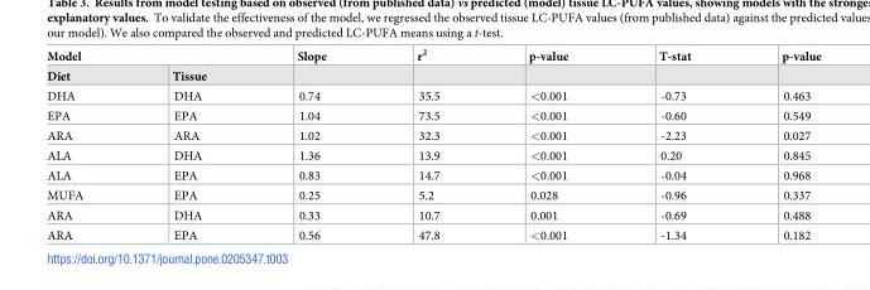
<table><thead><tr><td colspan="2">Model</td><td rowspan="2">Slope</td><td rowspan="2">r<sup>2</sup></td><td rowspan="2">p-value</td><td rowspan="2">T-stat</td><td rowspan="2">p-value</td></tr><tr><td>Diet</td><td>Tissue</td></tr></thead><tbody><tr><td>DHA</td><td>DHA</td><td>0.74</td><td>35.5</td><td>&lt;0.001</td><td>-0.73</td><td>0.463</td></tr><tr><td>EPA</td><td>EPA</td><td>1.04</td><td>73.5</td><td>&lt;0.001</td><td>-0.60</td><td>0.549</td></tr><tr><td>ARA</td><td>ARA</td><td>1.02</td><td>32.3</td><td>&lt;0.001</td><td>-2.23</td><td>0.027</td></tr><tr><td>ALA</td><td>DHA</td><td>1.36</td><td>13.9</td><td>&lt;0.001</td><td>0.20</td><td>0.845</td></tr><tr><td>ALA</td><td>EPA</td><td>0.83</td><td>14.7</td><td>&lt;0.001</td><td>-0.04</td><td>0.968</td></tr><tr><td>MUFA</td><td>EPA</td><td>0.25</td><td>5.2</td><td>0.028</td><td>-0.96</td><td>0.337</td></tr><tr><td>ARA</td><td>DHA</td><td>0.33</td><td>10.7</td><td>0.001</td><td>-0.69</td><td>0.488</td></tr><tr><td>ARA</td><td>EPA</td><td>0.56</td><td>47.8</td><td>&lt;0.001</td><td>-1.34</td><td>0.182</td></tr></tbody></table>